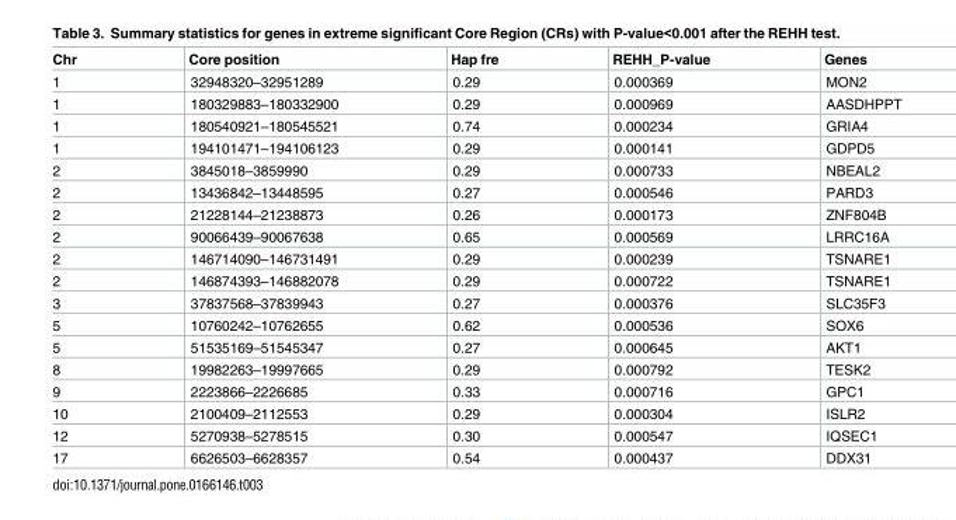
<table><thead><tr><td>Chr</td><td>Core position</td><td>Hap fre</td><td>REHH_P-value</td><td>Genes</td></tr></thead><tbody><tr><td>1</td><td>32948320–32951289</td><td>0.29</td><td>0.000369</td><td>MON2</td></tr><tr><td>1</td><td>180329883–180332900</td><td>0.29</td><td>0.000969</td><td>AASDHPPT</td></tr><tr><td>1</td><td>180540921–180545521</td><td>0.74</td><td>0.000234</td><td>GRIA4</td></tr><tr><td>1</td><td>194101471–194106123</td><td>0.29</td><td>0.000141</td><td>GDPD5</td></tr><tr><td>2</td><td>3845018–3859990</td><td>0.29</td><td>0.000733</td><td>NBEAL2</td></tr><tr><td>2</td><td>13436842–13448595</td><td>0.27</td><td>0.000546</td><td>PARD3</td></tr><tr><td>2</td><td>21228144–21238873</td><td>0.26</td><td>0.000173</td><td>ZNF804B</td></tr><tr><td>2</td><td>90066439–90067638</td><td>0.65</td><td>0.000569</td><td>LRRC16A</td></tr><tr><td>2</td><td>146714090–146731491</td><td>0.29</td><td>0.000239</td><td>TSNARE1</td></tr><tr><td>2</td><td>146874393–146882078</td><td>0.29</td><td>0.000722</td><td>TSNARE1</td></tr><tr><td>3</td><td>37837568–37839943</td><td>0.27</td><td>0.000376</td><td>SLC35F3</td></tr><tr><td>5</td><td>10760242–10762655</td><td>0.62</td><td>0.000536</td><td>SOX6</td></tr><tr><td>5</td><td>51535169–51545347</td><td>0.27</td><td>0.000645</td><td>AKT1</td></tr><tr><td>8</td><td>19982263–19997665</td><td>0.29</td><td>0.000792</td><td>TESK2</td></tr><tr><td>9</td><td>2223866–2226685</td><td>0.33</td><td>0.000716</td><td>GPC1</td></tr><tr><td>10</td><td>2100409–2112553</td><td>0.29</td><td>0.000304</td><td>ISLR2</td></tr><tr><td>12</td><td>5270938–5278515</td><td>0.30</td><td>0.000547</td><td>IQSEC1</td></tr><tr><td>17</td><td>6626503–6628357</td><td>0.54</td><td>0.000437</td><td>DDX31</td></tr></tbody></table>